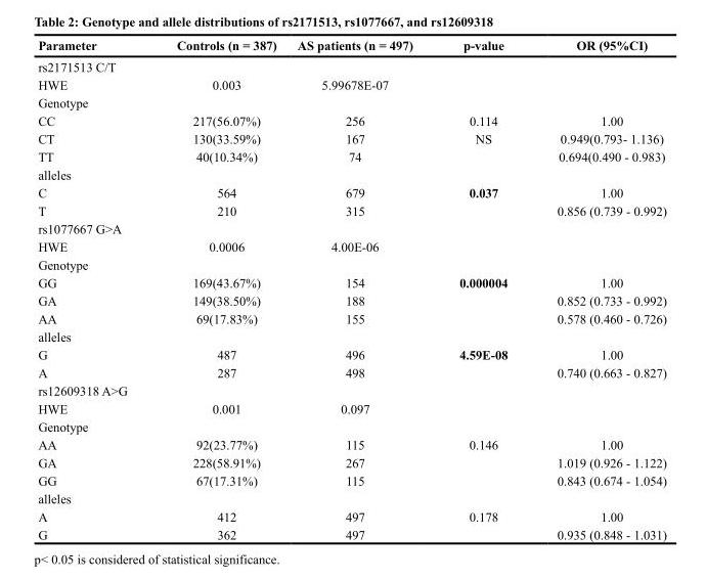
<table><thead><tr><td>Parameter</td><td>Controls (n = 387)</td><td>AS patients (n = 497)</td><td>p-value</td><td>OR (95%CI)</td></tr></thead><tbody><tr><td colspan="5">rs2171513 C/T</td></tr><tr><td>HWE</td><td>0.003</td><td>5.99678E-07</td><td></td><td></td></tr><tr><td colspan="5">Genotype</td></tr><tr><td>CC</td><td>217(56.07%)</td><td>256</td><td>0.114</td><td>1.00</td></tr><tr><td>CT</td><td>130(33.59%)</td><td>167</td><td>NS</td><td>0.949(0.793- 1.136)</td></tr><tr><td>TT</td><td>40(10.34%)</td><td>74</td><td></td><td>0.694(0.490 - 0.983)</td></tr><tr><td colspan="5">alleles</td></tr><tr><td>C</td><td>564</td><td>679</td><td>0.037</td><td>1.00</td></tr><tr><td>T</td><td>210</td><td>315</td><td></td><td>0.856 (0.739 - 0.992)</td></tr><tr><td colspan="5">rs1077667 G&gt;A</td></tr><tr><td>HWE</td><td>0.0006</td><td>4.00E-06</td><td></td><td></td></tr><tr><td colspan="5">Genotype</td></tr><tr><td>GG</td><td>169(43.67%)</td><td>154</td><td>0.000004</td><td>1.00</td></tr><tr><td>GA</td><td>149(38.50%)</td><td>188</td><td></td><td>0.852 (0.733 - 0.992)</td></tr><tr><td>AA</td><td>69(17.83%)</td><td>155</td><td></td><td>0.578 (0.460 - 0.726)</td></tr><tr><td colspan="5">alleles</td></tr><tr><td>G</td><td>487</td><td>496</td><td>4.59E-08</td><td>1.00</td></tr><tr><td>A</td><td>287</td><td>498</td><td></td><td>0.740 (0.663 - 0.827)</td></tr><tr><td colspan="5">rs12609318 A&gt;G</td></tr><tr><td>HWE</td><td>0.001</td><td>0.097</td><td></td><td></td></tr><tr><td colspan="5">Genotype</td></tr><tr><td>AA</td><td>92(23.77%)</td><td>115</td><td>0.146</td><td>1.00</td></tr><tr><td>GA</td><td>228(58.91%)</td><td>267</td><td></td><td>1.019 (0.926 - 1.122)</td></tr><tr><td>GG</td><td>67(17.31%)</td><td>115</td><td></td><td>0.843 (0.674 - 1.054)</td></tr><tr><td colspan="5">alleles</td></tr><tr><td>A</td><td>412</td><td>497</td><td>0.178</td><td>1.00</td></tr><tr><td>G</td><td>362</td><td>497</td><td></td><td>0.935 (0.848 - 1.031)</td></tr></tbody></table>